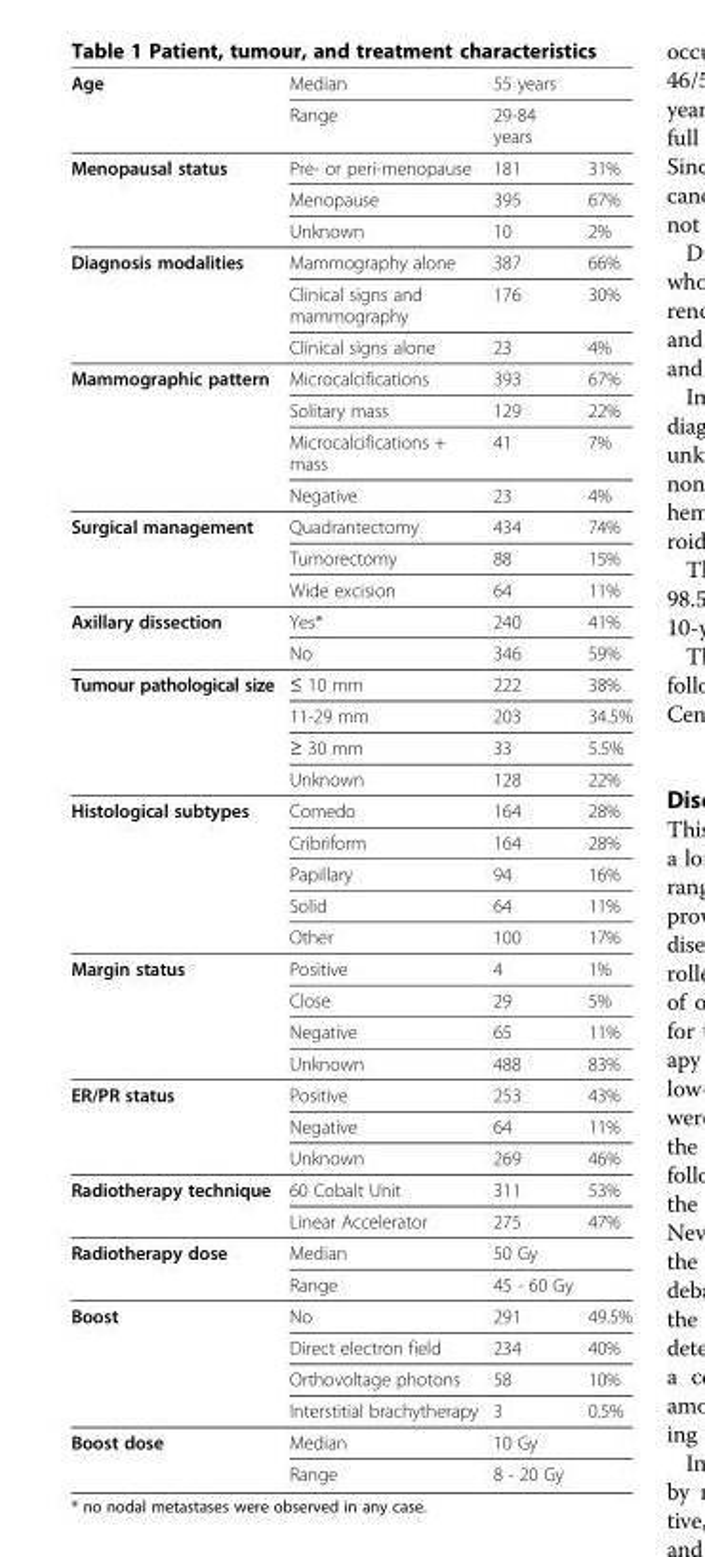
<table><tbody><tr><td rowspan="2">Age</td><td>Median</td><td>55 years</td><td></td></tr><tr><td>Range</td><td>29-84 years</td><td></td></tr><tr><td rowspan="3">Menopausal status</td><td>Pre- or peri-menopause</td><td>181</td><td>31%</td></tr><tr><td>Menopause</td><td>395</td><td>67%</td></tr><tr><td>Unknown</td><td>10</td><td>2%</td></tr><tr><td rowspan="3">Diagnosis modalities</td><td>Mammography alone</td><td>387</td><td>66%</td></tr><tr><td>Clinical signs and mammography</td><td>176</td><td>30%</td></tr><tr><td>Clinical signs alone</td><td>23</td><td>4%</td></tr><tr><td rowspan="4">Mammographic pattern</td><td>Microcalcifications</td><td>393</td><td>67%</td></tr><tr><td>Solitary mass</td><td>129</td><td>22%</td></tr><tr><td>Microcalcifications + mass</td><td>41</td><td>7%</td></tr><tr><td>Negative</td><td>23</td><td>4%</td></tr><tr><td rowspan="3">Surgical management</td><td>Quadrantectomy</td><td>434</td><td>74%</td></tr><tr><td>Tumorectomy</td><td>88</td><td>15%</td></tr><tr><td>Wide excision</td><td>64</td><td>11%</td></tr><tr><td rowspan="2">Axillary dissection</td><td>Yes*</td><td>240</td><td>41%</td></tr><tr><td>No</td><td>346</td><td>59%</td></tr><tr><td rowspan="4">Tumour pathological size</td><td>≤ 10 mm</td><td>222</td><td>38%</td></tr><tr><td>11-29 mm</td><td>203</td><td>34.5%</td></tr><tr><td>≥ 30 mm</td><td>33</td><td>5.5%</td></tr><tr><td>Unknown</td><td>128</td><td>22%</td></tr><tr><td rowspan="5">Histological subtypes</td><td>Comedo</td><td>164</td><td>28%</td></tr><tr><td>Cribriform</td><td>164</td><td>28%</td></tr><tr><td>Papillary</td><td>94</td><td>16%</td></tr><tr><td>Solid</td><td>64</td><td>11%</td></tr><tr><td>Other</td><td>100</td><td>17%</td></tr><tr><td rowspan="4">Margin status</td><td>Positive</td><td>4</td><td>1%</td></tr><tr><td>Close</td><td>29</td><td>5%</td></tr><tr><td>Negative</td><td>65</td><td>11%</td></tr><tr><td>Unknown</td><td>488</td><td>83%</td></tr><tr><td rowspan="3">ER/PR status</td><td>Positive</td><td>253</td><td>43%</td></tr><tr><td>Negative</td><td>64</td><td>11%</td></tr><tr><td>Unknown</td><td>269</td><td>46%</td></tr><tr><td rowspan="2">Radiotherapy technique</td><td>60 Cobalt Unit</td><td>311</td><td>53%</td></tr><tr><td>Linear Accelerator</td><td>275</td><td>47%</td></tr><tr><td rowspan="2">Radiotherapy dose</td><td>Median</td><td>50 Gy</td><td></td></tr><tr><td>Range</td><td>45 - 60 Gy</td><td></td></tr><tr><td rowspan="4">Boost</td><td>No</td><td>291</td><td>49.5%</td></tr><tr><td>Direct electron field</td><td>234</td><td>40%</td></tr><tr><td>Orthovoltage photons</td><td>58</td><td>10%</td></tr><tr><td>Interstitial brachytherapy</td><td>3</td><td>0.5%</td></tr><tr><td rowspan="2">Boost dose</td><td>Median</td><td>10 Gy</td><td></td></tr><tr><td>Range</td><td>8 - 20 Gy</td><td></td></tr></tbody></table>